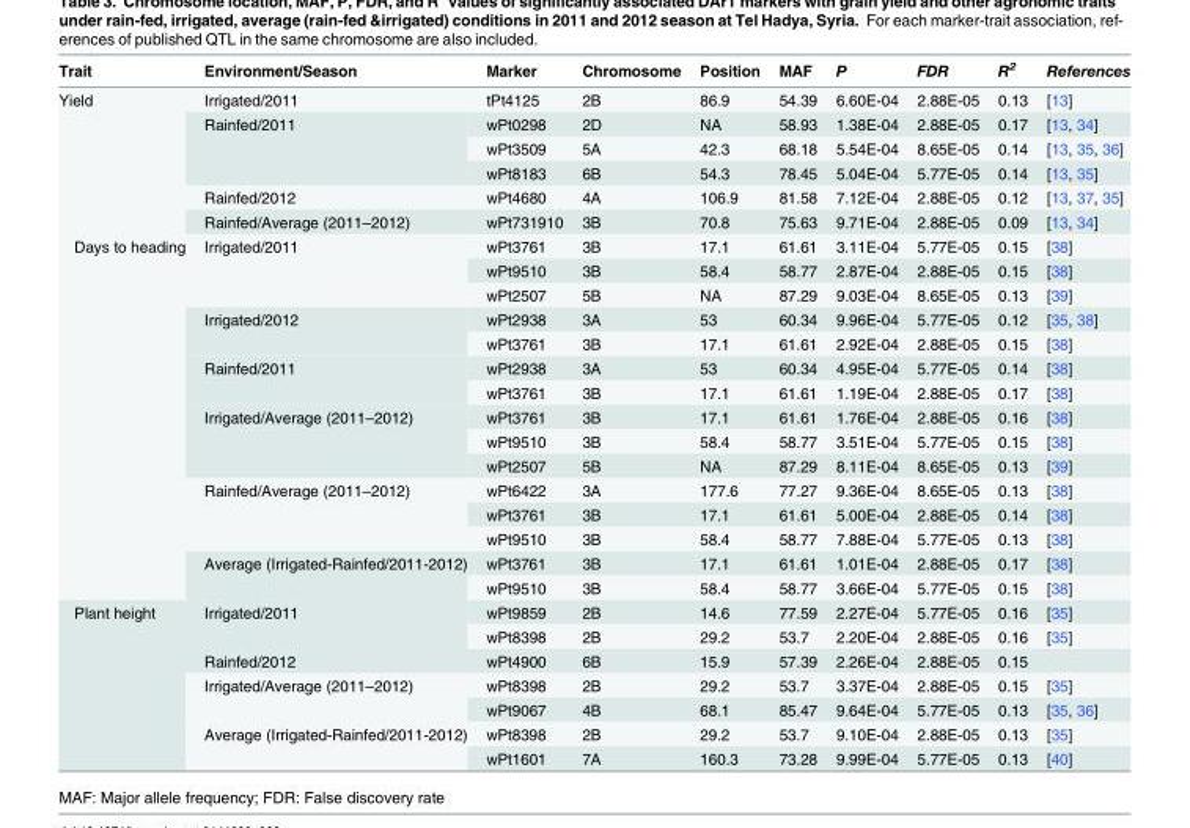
<table><thead><tr><td>Trait</td><td>Environment/Season</td><td>Marker</td><td>Chromosome</td><td>Position</td><td>MAF</td><td>P</td><td>FDR</td><td>R<sup>2</sup></td><td>References</td></tr></thead><tbody><tr><td rowspan="6">Yield</td><td>Irrigated/2011</td><td>tPt4125</td><td>2B</td><td>86.9</td><td>54.39</td><td>6.60E-04</td><td>2.88E-05</td><td>0.13</td><td>[13]</td></tr><tr><td rowspan="3">Rainfed/2011</td><td>wPt0298</td><td>2D</td><td>NA</td><td>58.93</td><td>1.38E-04</td><td>2.88E-05</td><td>0.17</td><td>[13, 34]</td></tr><tr><td>wPt3509</td><td>5A</td><td>42.3</td><td>68.18</td><td>5.54E-04</td><td>8.65E-05</td><td>0.14</td><td>[13, 35, 36]</td></tr><tr><td>wPt8183</td><td>6B</td><td>54.3</td><td>78.45</td><td>5.04E-04</td><td>5.77E-05</td><td>0.14</td><td>[13, 35]</td></tr><tr><td>Rainfed/2012</td><td>wPt4680</td><td>4A</td><td>106.9</td><td>81.58</td><td>7.12E-04</td><td>2.88E-05</td><td>0.12</td><td>[13, 37, 35]</td></tr><tr><td>Rainfed/Average (2011–2012)</td><td>wPt731910</td><td>3B</td><td>70.8</td><td>75.63</td><td>9.71E-04</td><td>2.88E-05</td><td>0.09</td><td>[13, 34]</td></tr><tr><td rowspan="15">Days to heading</td><td rowspan="3">Irrigated/2011</td><td>wPt3761</td><td>3B</td><td>17.1</td><td>61.61</td><td>3.11E-04</td><td>5.77E-05</td><td>0.15</td><td>[38]</td></tr><tr><td>wPt9510</td><td>3B</td><td>58.4</td><td>58.77</td><td>2.87E-04</td><td>2.88E-05</td><td>0.15</td><td>[38]</td></tr><tr><td>wPt2507</td><td>5B</td><td>NA</td><td>87.29</td><td>9.03E-04</td><td>8.65E-05</td><td>0.13</td><td>[39]</td></tr><tr><td rowspan="2">Irrigated/2012</td><td>wPt2938</td><td>3A</td><td>53</td><td>60.34</td><td>9.96E-04</td><td>5.77E-05</td><td>0.12</td><td>[35, 38]</td></tr><tr><td>wPt3761</td><td>3B</td><td>17.1</td><td>61.61</td><td>2.92E-04</td><td>2.88E-05</td><td>0.15</td><td>[38]</td></tr><tr><td rowspan="2">Rainfed/2011</td><td>wPt2938</td><td>3A</td><td>53</td><td>60.34</td><td>4.95E-04</td><td>5.77E-05</td><td>0.14</td><td>[38]</td></tr><tr><td>wPt3761</td><td>3B</td><td>17.1</td><td>61.61</td><td>1.19E-04</td><td>2.88E-05</td><td>0.17</td><td>[38]</td></tr><tr><td rowspan="3">Irrigated/Average (2011–2012)</td><td>wPt3761</td><td>3B</td><td>17.1</td><td>61.61</td><td>1.76E-04</td><td>2.88E-05</td><td>0.16</td><td>[38]</td></tr><tr><td>wPt9510</td><td>3B</td><td>58.4</td><td>58.77</td><td>3.51E-04</td><td>5.77E-05</td><td>0.15</td><td>[38]</td></tr><tr><td>wPt2507</td><td>5B</td><td>NA</td><td>87.29</td><td>8.11E-04</td><td>8.65E-05</td><td>0.13</td><td>[39]</td></tr><tr><td rowspan="3">Rainfed/Average (2011–2012)</td><td>wPt6422</td><td>3A</td><td>177.6</td><td>77.27</td><td>9.36E-04</td><td>8.65E-05</td><td>0.13</td><td>[38]</td></tr><tr><td>wPt3761</td><td>3B</td><td>17.1</td><td>61.61</td><td>5.00E-04</td><td>2.88E-05</td><td>0.14</td><td>[38]</td></tr><tr><td>wPt9510</td><td>3B</td><td>58.4</td><td>58.77</td><td>7.88E-04</td><td>5.77E-05</td><td>0.13</td><td>[38]</td></tr><tr><td rowspan="2">Average (Irrigated-Rainfed/2011-2012)</td><td>wPt3761</td><td>3B</td><td>17.1</td><td>61.61</td><td>1.01E-04</td><td>2.88E-05</td><td>0.17</td><td>[38]</td></tr><tr><td>wPt9510</td><td>3B</td><td>58.4</td><td>58.77</td><td>3.66E-04</td><td>5.77E-05</td><td>0.15</td><td>[38]</td></tr><tr><td rowspan="7">Plant height</td><td rowspan="2">Irrigated/2011</td><td>wPt9859</td><td>2B</td><td>14.6</td><td>77.59</td><td>2.27E-04</td><td>5.77E-05</td><td>0.16</td><td>[35]</td></tr><tr><td>wPt8398</td><td>2B</td><td>29.2</td><td>53.7</td><td>2.20E-04</td><td>2.88E-05</td><td>0.16</td><td>[35]</td></tr><tr><td>Rainfed/2012</td><td>wPt4900</td><td>6B</td><td>15.9</td><td>57.39</td><td>2.26E-04</td><td>2.88E-05</td><td>0.15</td><td></td></tr><tr><td rowspan="2">Irrigated/Average (2011–2012)</td><td>wPt8398</td><td>2B</td><td>29.2</td><td>53.7</td><td>3.37E-04</td><td>2.88E-05</td><td>0.15</td><td>[35]</td></tr><tr><td>wPt9067</td><td>4B</td><td>68.1</td><td>85.47</td><td>9.64E-04</td><td>5.77E-05</td><td>0.13</td><td>[35, 36]</td></tr><tr><td rowspan="2">Average (Irrigated-Rainfed/2011-2012)</td><td>wPt8398</td><td>2B</td><td>29.2</td><td>53.7</td><td>9.10E-04</td><td>2.88E-05</td><td>0.13</td><td>[35]</td></tr><tr><td>wPt1601</td><td>7A</td><td>160.3</td><td>73.28</td><td>9.99E-04</td><td>5.77E-05</td><td>0.13</td><td>[40]</td></tr></tbody></table>